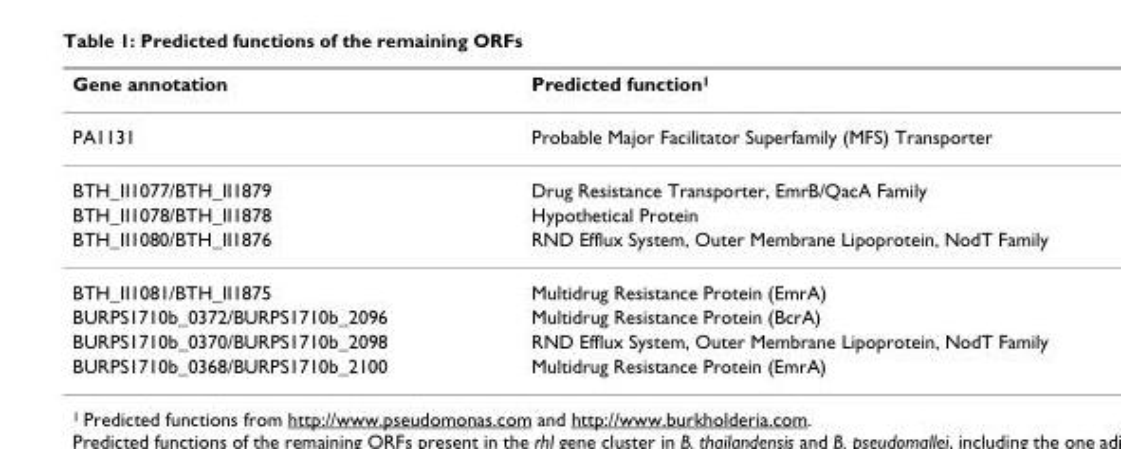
<table><thead><tr><td>Gene annotation</td><td>Predicted function<sup>1</sup></td></tr></thead><tbody><tr><td>PA1131</td><td>Probable Major Facilitator Superfamily (MFS) Transporter</td></tr><tr><td>BTH_II1077/BTH_II1879</td><td>Drug Resistance Transporter, EmrB/QacA Family</td></tr><tr><td>BTH_II1078/BTH_II1878</td><td>Hypothetical Protein</td></tr><tr><td>BTH_II1080/BTH_II1876</td><td>RND Efflux System, Outer Membrane Lipoprotein, NodT Family</td></tr><tr><td>BTH_II1081/BTH_II1875</td><td>Multidrug Resistance Protein (EmrA)</td></tr><tr><td>BURPS1710b_0372/BURPS1710b_2096</td><td>Multidrug Resistance Protein (BcrA)</td></tr><tr><td>BURPS1710b_0370/BURPS1710b_2098</td><td>RND Efflux System, Outer Membrane Lipoprotein, NodT Family</td></tr><tr><td>BURPS1710b_0368/BURPS1710b_2100</td><td>Multidrug Resistance Protein (EmrA)</td></tr></tbody></table>